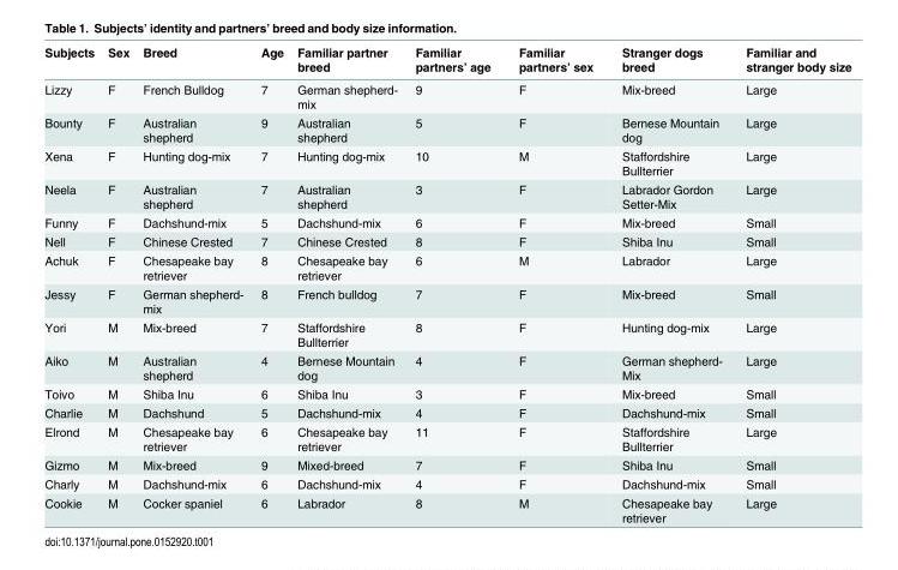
<table><thead><tr><td>Subjects</td><td>Sex</td><td>Breed</td><td>Age</td><td>Familiar partner breed</td><td>Familiar partners’ age</td><td>Familiar partners’ sex</td><td>Stranger dogs breed</td><td>Familiar and stranger body size</td></tr></thead><tbody><tr><td>Lizzy</td><td>F</td><td>French Bulldog</td><td>7</td><td>German shepherd- mix</td><td>9</td><td>F</td><td>Mix-breed</td><td>Large</td></tr><tr><td>Bounty</td><td>F</td><td>Australian shepherd</td><td>9</td><td>Australian shepherd</td><td>5</td><td>F</td><td>Bernese Mountain dog</td><td>Large</td></tr><tr><td>Xena</td><td>F</td><td>Hunting dog-mix</td><td>7</td><td>Hunting dog-mix</td><td>10</td><td>M</td><td>Staffordshire Bullterrier</td><td>Large</td></tr><tr><td>Neela</td><td>F</td><td>Australian shepherd</td><td>7</td><td>Australian shepherd</td><td>3</td><td>F</td><td>Labrador Gordon Setter-Mix</td><td>Large</td></tr><tr><td>Funny</td><td>F</td><td>Dachshund-mix</td><td>5</td><td>Dachshund-mix</td><td>6</td><td>F</td><td>Mix-breed</td><td>Small</td></tr><tr><td>Nell</td><td>F</td><td>Chinese Crested</td><td>7</td><td>Chinese Crested</td><td>8</td><td>F</td><td>Shiba Inu</td><td>Small</td></tr><tr><td>Achuk</td><td>F</td><td>Chesapeake bay retriever</td><td>8</td><td>Chesapeake bay retriever</td><td>6</td><td>M</td><td>Labrador</td><td>Large</td></tr><tr><td>Jessy</td><td>F</td><td>German shepherd- mix</td><td>8</td><td>French bulldog</td><td>7</td><td>F</td><td>Mix-breed</td><td>Small</td></tr><tr><td>Yori</td><td>M</td><td>Mix-breed</td><td>7</td><td>Staffordshire Bullterrier</td><td>8</td><td>F</td><td>Hunting dog-mix</td><td>Large</td></tr><tr><td>Aiko</td><td>M</td><td>Australian shepherd</td><td>4</td><td>Bernese Mountain dog</td><td>4</td><td>F</td><td>German shepherd- Mix</td><td>Large</td></tr><tr><td>Toivo</td><td>M</td><td>Shiba Inu</td><td>6</td><td>Shiba Inu</td><td>3</td><td>F</td><td>Mix-breed</td><td>Small</td></tr><tr><td>Charlie</td><td>M</td><td>Dachshund</td><td>5</td><td>Dachshund-mix</td><td>4</td><td>F</td><td>Dachshund-mix</td><td>Small</td></tr><tr><td>Elrond</td><td>M</td><td>Chesapeake bay retriever</td><td>6</td><td>Chesapeake bay retriever</td><td>11</td><td>F</td><td>Staffordshire Bullterrier</td><td>Large</td></tr><tr><td>Gizmo</td><td>M</td><td>Mix-breed</td><td>9</td><td>Mixed-breed</td><td>7</td><td>F</td><td>Shiba Inu</td><td>Small</td></tr><tr><td>Charly</td><td>M</td><td>Dachshund-mix</td><td>6</td><td>Dachshund-mix</td><td>4</td><td>F</td><td>Dachshund-mix</td><td>Small</td></tr><tr><td>Cookie</td><td>M</td><td>Cocker spaniel</td><td>6</td><td>Labrador</td><td>8</td><td>M</td><td>Chesapeake bay retriever</td><td>Large</td></tr></tbody></table>